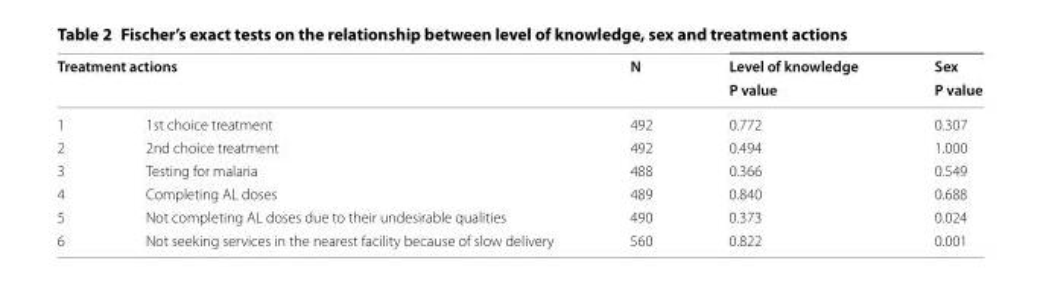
<table><thead><tr><td rowspan="2" colspan="2">Treatment actions</td><td rowspan="3">N 492</td><td rowspan="3">Level of knowledge P value 0.772</td><td rowspan="3">Sex P value 0.307</td></tr><tr></tr><tr><td>1</td><td>1st choice treatment</td></tr></thead><tbody><tr><td>2</td><td>2nd choice treatment</td><td>492</td><td>0.494</td><td>1.000</td></tr><tr><td>3</td><td>Testing for malaria</td><td>488</td><td>0.366</td><td>0.549</td></tr><tr><td>4</td><td>Completing AL doses</td><td>489</td><td>0.840</td><td>0.688</td></tr><tr><td>5</td><td>Not completing AL doses due to their undesirable qualities</td><td>490</td><td>0.373</td><td>0.024</td></tr><tr><td>6</td><td>Not seeking services in the nearest facility because of slow delivery</td><td>560</td><td>0.822</td><td>0.001</td></tr></tbody></table>